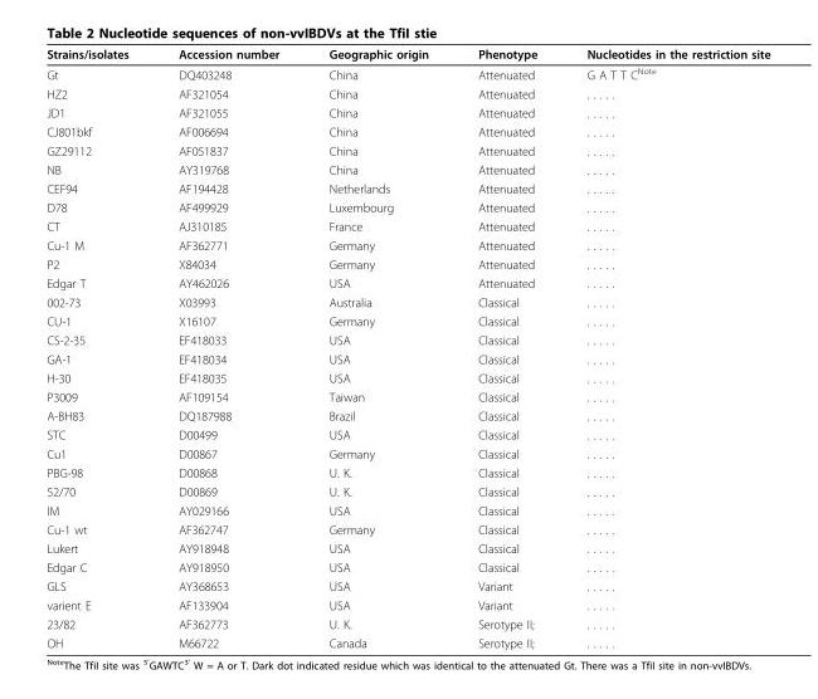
<table><thead><tr><td>Strains/isolates</td><td>Accession number</td><td>Geographic origin</td><td>Phenotype</td><td>Nucleotides in the restriction site</td></tr></thead><tbody><tr><td>Gt</td><td>DQ403248</td><td>China</td><td>Attenuated</td><td>G A T T C<sup>Note</sup></td></tr><tr><td>HZ2</td><td>AF321054</td><td>China</td><td>Attenuated</td><td>. . . . .</td></tr><tr><td>JD1</td><td>AF321055</td><td>China</td><td>Attenuated</td><td>. . . . .</td></tr><tr><td>CJ801bkf</td><td>AF006694</td><td>China</td><td>Attenuated</td><td>. . . . .</td></tr><tr><td>GZ29112</td><td>AF051837</td><td>China</td><td>Attenuated</td><td>. . . . .</td></tr><tr><td>NB</td><td>AY319768</td><td>China</td><td>Attenuated</td><td>. . . . .</td></tr><tr><td>CEF94</td><td>AF194428</td><td>Netherlands</td><td>Attenuated</td><td>. . . . .</td></tr><tr><td>D78</td><td>AF499929</td><td>Luxembourg</td><td>Attenuated</td><td>. . . . .</td></tr><tr><td>CT</td><td>AJ310185</td><td>France</td><td>Attenuated</td><td>. . . . .</td></tr><tr><td>Cu-1 M</td><td>AF362771</td><td>Germany</td><td>Attenuated</td><td>. . . . .</td></tr><tr><td>P2</td><td>X84034</td><td>Germany</td><td>Attenuated</td><td>. . . . .</td></tr><tr><td>Edgar T</td><td>AY462026</td><td>USA</td><td>Attenuated</td><td>. . . . .</td></tr><tr><td>002-73</td><td>X03993</td><td>Australia</td><td>Classical</td><td>. . . . .</td></tr><tr><td>CU-1</td><td>X16107</td><td>Germany</td><td>Classical</td><td>. . . . .</td></tr><tr><td>CS-2-35</td><td>EF418033</td><td>USA</td><td>Classical</td><td>. . . . .</td></tr><tr><td>GA-1</td><td>EF418034</td><td>USA</td><td>Classical</td><td>. . . . .</td></tr><tr><td>H-30</td><td>EF418035</td><td>USA</td><td>Classical</td><td>. . . . .</td></tr><tr><td>P3009</td><td>AF109154</td><td>Taiwan</td><td>Classical</td><td>. . . . .</td></tr><tr><td>A-BH83</td><td>DQ187988</td><td>Brazil</td><td>Classical</td><td>. . . . .</td></tr><tr><td>STC</td><td>D00499</td><td>USA</td><td>Classical</td><td>. . . . .</td></tr><tr><td>Cu1</td><td>D00867</td><td>Germany</td><td>Classical</td><td>. . . . .</td></tr><tr><td>PBG-98</td><td>D00868</td><td>U. K.</td><td>Classical</td><td>. . . . .</td></tr><tr><td>52/70</td><td>D00869</td><td>U. K.</td><td>Classical</td><td>. . . . .</td></tr><tr><td>IM</td><td>AY029166</td><td>USA</td><td>Classical</td><td>. . . . .</td></tr><tr><td>Cu-1 wt</td><td>AF362747</td><td>Germany</td><td>Classical</td><td>. . . . .</td></tr><tr><td>Lukert</td><td>AY918948</td><td>USA</td><td>Classical</td><td>. . . . .</td></tr><tr><td>Edgar C</td><td>AY918950</td><td>USA</td><td>Classical</td><td>. . . . .</td></tr><tr><td>GLS</td><td>AY368653</td><td>USA</td><td>Variant</td><td>. . . . .</td></tr><tr><td>varient E</td><td>AF133904</td><td>USA</td><td>Variant</td><td>. . . . .</td></tr><tr><td>23/82</td><td>AF362773</td><td>U. K.</td><td>Serotype II;</td><td>. . . . .</td></tr><tr><td>OH</td><td>M66722</td><td>Canada</td><td>Serotype II;</td><td>. . . . .</td></tr></tbody></table>